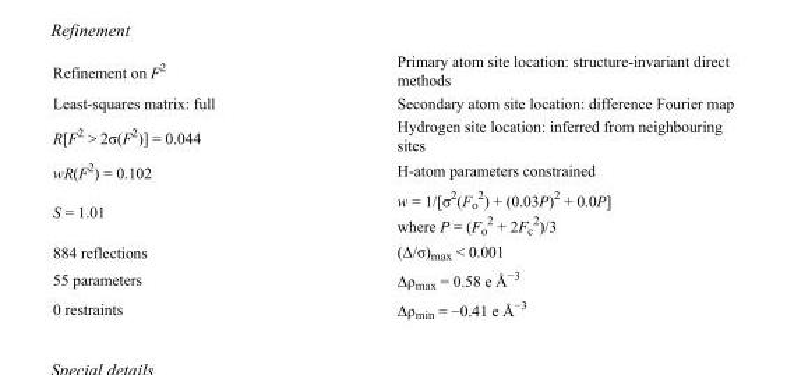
<table><tbody><tr><td>Refinement on F<sup>2</sup></td><td>Primary atom site location: structure-invariant direct methods</td></tr><tr><td>Least-squares matrix: full</td><td>Secondary atom site location: difference Fourier map</td></tr><tr><td>R[F<sup>2</sup> &gt; 2σ(F<sup>2</sup>)] = 0.044</td><td>Hydrogen site location: inferred from neighbouring sites</td></tr><tr><td>wR(F<sup>2</sup>) = 0.102</td><td>H-atom parameters constrained</td></tr><tr><td>S = 1.01</td><td>w = 1/[σ<sup>2</sup>(F<sub>o</sub> <sup>2</sup>) + (0.03P)<sup>2</sup> + 0.0P] where P = (F<sub>o</sub> <sup>2</sup> + 2F<sub>c</sub> <sup>2</sup>)/3</td></tr><tr><td>884 reflections</td><td>(Δ/σ)<sub>max</sub> &lt; 0.001</td></tr><tr><td>55 parameters</td><td>Δρ<sub>max</sub> = 0.58 e Å<sup>−3</sup></td></tr><tr><td>0 restraints</td><td>Δρ<sub>min</sub> = −0.41 e Å<sup>−3</sup></td></tr></tbody></table>